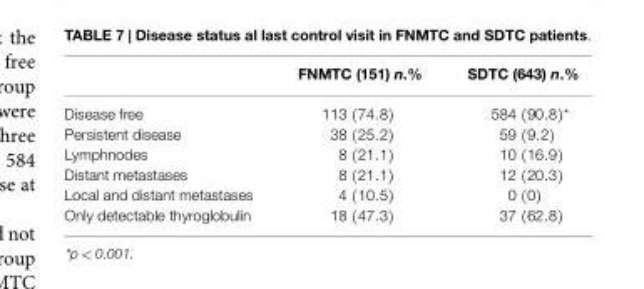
<table><thead><tr><td></td><td>FNMTC (151) n.%</td><td>SDTC (643) n.%</td></tr></thead><tbody><tr><td>Disease free</td><td>113 (74.8)</td><td>584 (90.8)*</td></tr><tr><td>Persistent disease</td><td>38 (25.2)</td><td>59 (9.2)</td></tr><tr><td>Lymphnodes</td><td>8 (21.1)</td><td>10 (16.9)</td></tr><tr><td>Distant metastases</td><td>8 (21.1)</td><td>12 (20.3)</td></tr><tr><td>Local and distant metastases</td><td>4 (10.5)</td><td>0 (0)</td></tr><tr><td>Only detectable thyroglobulin</td><td>18 (47.3)</td><td>37 (62.8)</td></tr></tbody></table>